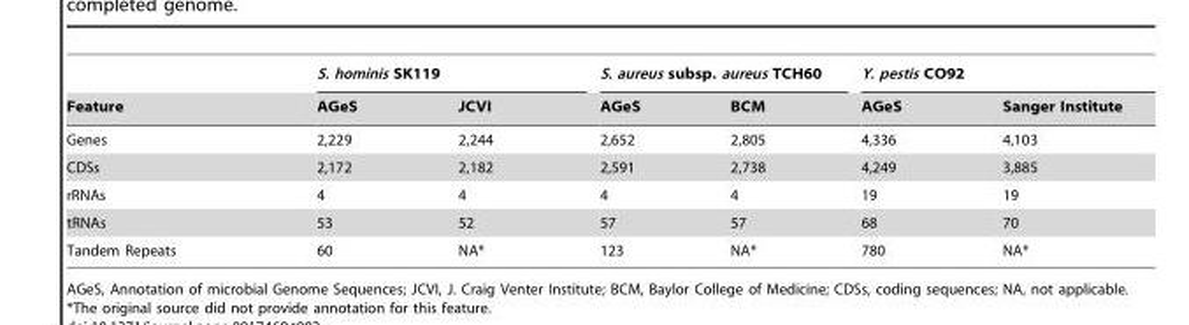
<table><thead><tr><td rowspan="2">Feature</td><td colspan="2">S. hominis SK119</td><td colspan="2">S. aureus subsp. aureus TCH60</td><td colspan="2">Y. pestis CO92</td></tr><tr><td>AGeS</td><td>JCVI</td><td>AGeS</td><td>BCM</td><td>AGeS</td><td>Sanger Institute</td></tr></thead><tbody><tr><td>Genes</td><td>2,229</td><td>2,244</td><td>2,652</td><td>2,805</td><td>4,336</td><td>4,103</td></tr><tr><td>CDSs</td><td>2,172</td><td>2,182</td><td>2,591</td><td>2,738</td><td>4,249</td><td>3,885</td></tr><tr><td>rRNAs</td><td>4</td><td>4</td><td>4</td><td>4</td><td>19</td><td>19</td></tr><tr><td>tRNAs</td><td>53</td><td>52</td><td>57</td><td>57</td><td>68</td><td>70</td></tr><tr><td>Tandem Repeats</td><td>60</td><td>NA*</td><td>123</td><td>NA*</td><td>780</td><td>NA*</td></tr></tbody></table>